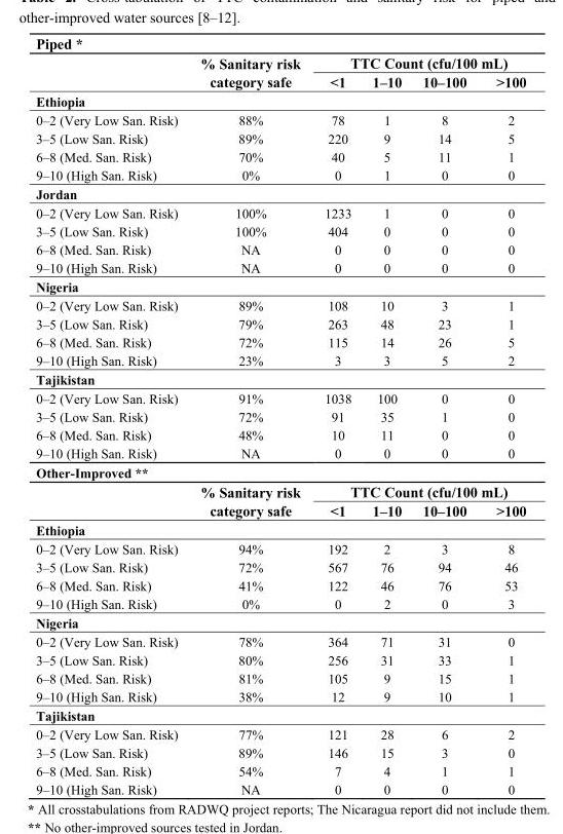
<table><tbody><tr><td colspan="6">Piped *</td></tr><tr><td rowspan="2"></td><td rowspan="2">% Sanitary risk category safe</td><td colspan="4">TTC Count (cfu/100 mL)</td></tr><tr><td>&lt;1</td><td>1–10</td><td>10–100</td><td>&gt;100</td></tr><tr><td colspan="6">Ethiopia</td></tr><tr><td>0–2 (Very Low San. Risk)</td><td>88%</td><td>78</td><td>1</td><td>8</td><td>2</td></tr><tr><td>3–5 (Low San. Risk)</td><td>89%</td><td>220</td><td>9</td><td>14</td><td>5</td></tr><tr><td>6–8 (Med. San. Risk)</td><td>70%</td><td>40</td><td>5</td><td>11</td><td>1</td></tr><tr><td>9–10 (High San. Risk)</td><td>0%</td><td>0</td><td>1</td><td>0</td><td>0</td></tr><tr><td colspan="6">Jordan</td></tr><tr><td>0–2 (Very Low San. Risk)</td><td>100%</td><td>1233</td><td>1</td><td>0</td><td>0</td></tr><tr><td>3–5 (Low San. Risk)</td><td>100%</td><td>404</td><td>0</td><td>0</td><td>0</td></tr><tr><td>6–8 (Med. San. Risk)</td><td>NA</td><td>0</td><td>0</td><td>0</td><td>0</td></tr><tr><td>9–10 (High San. Risk)</td><td>NA</td><td>0</td><td>0</td><td>0</td><td>0</td></tr><tr><td colspan="6">Nigeria</td></tr><tr><td>0–2 (Very Low San. Risk)</td><td>89%</td><td>108</td><td>10</td><td>3</td><td>1</td></tr><tr><td>3–5 (Low San. Risk)</td><td>79%</td><td>263</td><td>48</td><td>23</td><td>1</td></tr><tr><td>6–8 (Med. San. Risk)</td><td>72%</td><td>115</td><td>14</td><td>26</td><td>5</td></tr><tr><td>9–10 (High San. Risk)</td><td>23%</td><td>3</td><td>3</td><td>5</td><td>2</td></tr><tr><td colspan="6">Tajikistan</td></tr><tr><td>0–2 (Very Low San. Risk)</td><td>91%</td><td>1038</td><td>100</td><td>0</td><td>0</td></tr><tr><td>3–5 (Low San. Risk)</td><td>72%</td><td>91</td><td>35</td><td>1</td><td>0</td></tr><tr><td>6–8 (Med. San. Risk)</td><td>48%</td><td>10</td><td>11</td><td>0</td><td>0</td></tr><tr><td>9–10 (High San. Risk)</td><td>NA</td><td>0</td><td>0</td><td>0</td><td>0</td></tr><tr><td colspan="6">Other-Improved **</td></tr><tr><td rowspan="2"></td><td rowspan="2">% Sanitary risk category safe</td><td colspan="4">TTC Count (cfu/100 mL)</td></tr><tr><td>&lt;1</td><td>1–10</td><td>10–100</td><td>&gt;100</td></tr><tr><td colspan="6">Ethiopia</td></tr><tr><td>0–2 (Very Low San. Risk)</td><td>94%</td><td>192</td><td>2</td><td>3</td><td>8</td></tr><tr><td>3–5 (Low San. Risk)</td><td>72%</td><td>567</td><td>76</td><td>94</td><td>46</td></tr><tr><td>6–8 (Med. San. Risk)</td><td>41%</td><td>122</td><td>46</td><td>76</td><td>53</td></tr><tr><td>9–10 (High San. Risk)</td><td>0%</td><td>0</td><td>2</td><td>0</td><td>3</td></tr><tr><td colspan="6">Nigeria</td></tr><tr><td>0–2 (Very Low San. Risk)</td><td>78%</td><td>364</td><td>71</td><td>31</td><td>0</td></tr><tr><td>3–5 (Low San. Risk)</td><td>80%</td><td>256</td><td>31</td><td>33</td><td>1</td></tr><tr><td>6–8 (Med. San. Risk)</td><td>81%</td><td>105</td><td>9</td><td>15</td><td>1</td></tr><tr><td>9–10 (High San. Risk)</td><td>38%</td><td>12</td><td>9</td><td>10</td><td>1</td></tr><tr><td colspan="6">Tajikistan</td></tr><tr><td>0–2 (Very Low San. Risk)</td><td>77%</td><td>121</td><td>28</td><td>6</td><td>2</td></tr><tr><td>3–5 (Low San. Risk)</td><td>89%</td><td>146</td><td>15</td><td>3</td><td>0</td></tr><tr><td>6–8 (Med. San. Risk)</td><td>54%</td><td>7</td><td>4</td><td>1</td><td>1</td></tr><tr><td>9–10 (High San. Risk)</td><td>NA</td><td>0</td><td>0</td><td>0</td><td>0</td></tr></tbody></table>